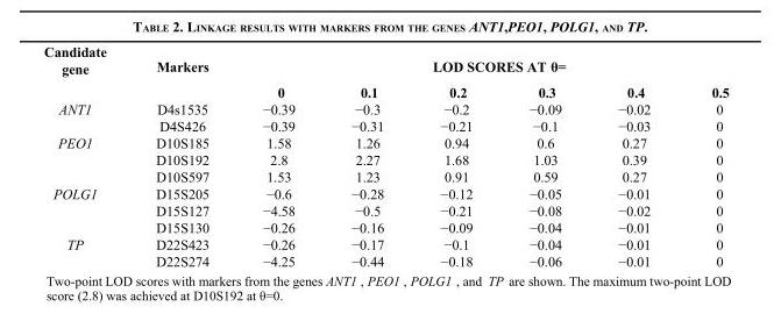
<table><thead><tr><td rowspan="2">Candidate gene</td><td rowspan="2">Markers</td><td colspan="6">LOD SCORES AT θ=</td></tr><tr><td>0</td><td>0.1</td><td>0.2</td><td>0.3</td><td>0.4</td><td>0.5</td></tr></thead><tbody><tr><td rowspan="2">ANT1</td><td>D4s1535</td><td>−0.39</td><td>−0.3</td><td>−0.2</td><td>−0.09</td><td>−0.02</td><td>0</td></tr><tr><td>D4S426</td><td>−0.39</td><td>−0.31</td><td>−0.21</td><td>−0.1</td><td>−0.03</td><td>0</td></tr><tr><td rowspan="3">PEO1</td><td>D10S185</td><td>1.58</td><td>1.26</td><td>0.94</td><td>0.6</td><td>0.27</td><td>0</td></tr><tr><td>D10S192</td><td>2.8</td><td>2.27</td><td>1.68</td><td>1.03</td><td>0.39</td><td>0</td></tr><tr><td>D10S597</td><td>1.53</td><td>1.23</td><td>0.91</td><td>0.59</td><td>0.27</td><td>0</td></tr><tr><td rowspan="3">POLG1</td><td>D15S205</td><td>−0.6</td><td>−0.28</td><td>−0.12</td><td>−0.05</td><td>−0.01</td><td>0</td></tr><tr><td>D15S127</td><td>−4.58</td><td>−0.5</td><td>−0.21</td><td>−0.08</td><td>−0.02</td><td>0</td></tr><tr><td>D15S130</td><td>−0.26</td><td>−0.16</td><td>−0.09</td><td>−0.04</td><td>−0.01</td><td>0</td></tr><tr><td rowspan="2">TP</td><td>D22S423</td><td>−0.26</td><td>−0.17</td><td>−0.1</td><td>−0.04</td><td>−0.01</td><td>0</td></tr><tr><td>D22S274</td><td>−4.25</td><td>−0.44</td><td>−0.18</td><td>−0.06</td><td>−0.01</td><td>0</td></tr></tbody></table>